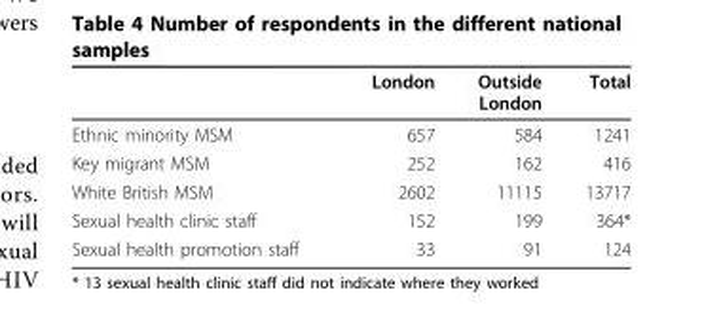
<table><thead><tr><td></td><td>London</td><td>Outside London</td><td>Total</td></tr></thead><tbody><tr><td>Ethnic minority MSM</td><td>657</td><td>584</td><td>1241</td></tr><tr><td>Key migrant MSM</td><td>252</td><td>162</td><td>416</td></tr><tr><td>White British MSM</td><td>2602</td><td>11115</td><td>13717</td></tr><tr><td>Sexual health clinic staff</td><td>152</td><td>199</td><td>364*</td></tr><tr><td>Sexual health promotion staff</td><td>33</td><td>91</td><td>124</td></tr></tbody></table>